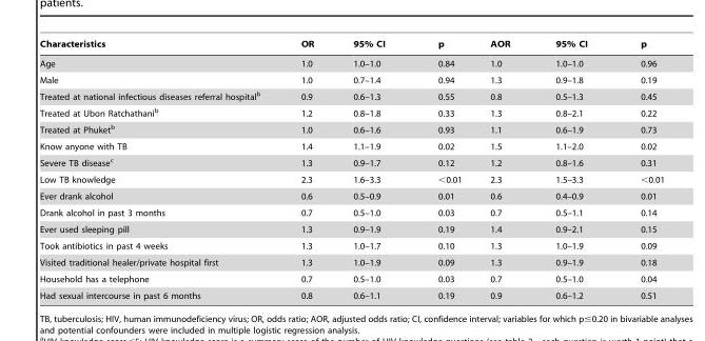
<table><thead><tr><td>Characteristics</td><td>OR</td><td>95% CI</td><td>p</td><td>AOR</td><td>95% CI</td><td>p</td></tr></thead><tbody><tr><td>Age</td><td>1.0</td><td>1.0–1.0</td><td>0.84</td><td>1.0</td><td>1.0–1.0</td><td>0.96</td></tr><tr><td>Male</td><td>1.0</td><td>0.7–1.4</td><td>0.94</td><td>1.3</td><td>0.9–1.8</td><td>0.19</td></tr><tr><td>Treated at national infectious diseases referral hospital<sup>b</sup></td><td>0.9</td><td>0.6–1.3</td><td>0.55</td><td>0.8</td><td>0.5–1.3</td><td>0.45</td></tr><tr><td>Treated at Ubon Ratchathani<sup>b</sup></td><td>1.2</td><td>0.8–1.8</td><td>0.33</td><td>1.3</td><td>0.8–2.1</td><td>0.22</td></tr><tr><td>Treated at Phuket<sup>b</sup></td><td>1.0</td><td>0.6–1.6</td><td>0.93</td><td>1.1</td><td>0.6–1.9</td><td>0.73</td></tr><tr><td>Know anyone with TB</td><td>1.4</td><td>1.1–1.9</td><td>0.02</td><td>1.5</td><td>1.1–2.0</td><td>0.02</td></tr><tr><td>Severe TB disease<sup>c</sup></td><td>1.3</td><td>0.9–1.7</td><td>0.12</td><td>1.2</td><td>0.8–1.6</td><td>0.31</td></tr><tr><td>Low TB knowledge</td><td>2.3</td><td>1.6–3.3</td><td>&lt;0.01</td><td>2.3</td><td>1.5–3.3</td><td>&lt;0.01</td></tr><tr><td>Ever drank alcohol</td><td>0.6</td><td>0.5–0.9</td><td>0.01</td><td>0.6</td><td>0.4–0.9</td><td>0.01</td></tr><tr><td>Drank alcohol in past 3 months</td><td>0.7</td><td>0.5–1.0</td><td>0.03</td><td>0.7</td><td>0.5–1.1</td><td>0.14</td></tr><tr><td>Ever used sleeping pill</td><td>1.3</td><td>0.9–1.9</td><td>0.19</td><td>1.4</td><td>0.9–2.1</td><td>0.15</td></tr><tr><td>Took antibiotics in past 4 weeks</td><td>1.3</td><td>1.0–1.7</td><td>0.10</td><td>1.3</td><td>1.0–1.9</td><td>0.09</td></tr><tr><td>Visited traditional healer/private hospital first</td><td>1.3</td><td>1.0–1.9</td><td>0.09</td><td>1.3</td><td>0.9–1.9</td><td>0.18</td></tr><tr><td>Household has a telephone</td><td>0.7</td><td>0.5–1.0</td><td>0.03</td><td>0.7</td><td>0.5–1.0</td><td>0.04</td></tr><tr><td>Had sexual intercourse in past 6 months</td><td>0.8</td><td>0.6–1.1</td><td>0.19</td><td>0.9</td><td>0.6–1.2</td><td>0.51</td></tr></tbody></table>